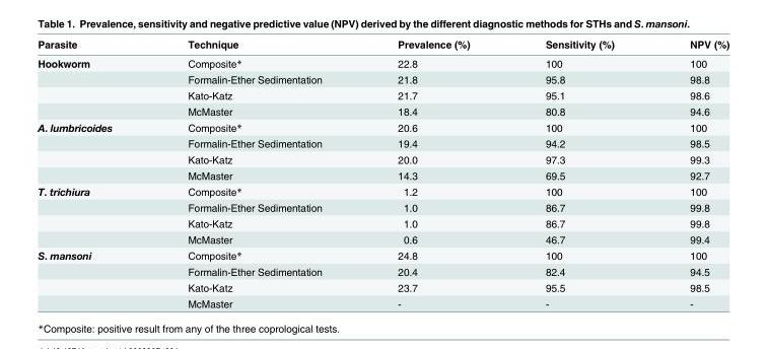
<table><thead><tr><td>Parasite</td><td>Technique</td><td>Prevalence (%)</td><td>Sensitivity (%)</td><td>NPV (%)</td></tr></thead><tbody><tr><td rowspan="4">Hookworm</td><td>Composite*</td><td>22.8</td><td>100</td><td>100</td></tr><tr><td>Formalin-Ether Sedimentation</td><td>21.8</td><td>95.8</td><td>98.8</td></tr><tr><td>Kato-Katz</td><td>21.7</td><td>95.1</td><td>98.6</td></tr><tr><td>McMaster</td><td>18.4</td><td>80.8</td><td>94.6</td></tr><tr><td rowspan="4">A. lumbricoides</td><td>Composite*</td><td>20.6</td><td>100</td><td>100</td></tr><tr><td>Formalin-Ether Sedimentation</td><td>19.4</td><td>94.2</td><td>98.5</td></tr><tr><td>Kato-Katz</td><td>20.0</td><td>97.3</td><td>99.3</td></tr><tr><td>McMaster</td><td>14.3</td><td>69.5</td><td>92.7</td></tr><tr><td rowspan="4">T. trichiura</td><td>Composite*</td><td>1.2</td><td>100</td><td>100</td></tr><tr><td>Formalin-Ether Sedimentation</td><td>1.0</td><td>86.7</td><td>99.8</td></tr><tr><td>Kato-Katz</td><td>1.0</td><td>86.7</td><td>99.8</td></tr><tr><td>McMaster</td><td>0.6</td><td>46.7</td><td>99.4</td></tr><tr><td rowspan="4">S. mansoni</td><td>Composite*</td><td>24.8</td><td>100</td><td>100</td></tr><tr><td>Formalin-Ether Sedimentation</td><td>20.4</td><td>82.4</td><td>94.5</td></tr><tr><td>Kato-Katz</td><td>23.7</td><td>95.5</td><td>98.5</td></tr><tr><td>McMaster</td><td>-</td><td>-</td><td>-</td></tr></tbody></table>